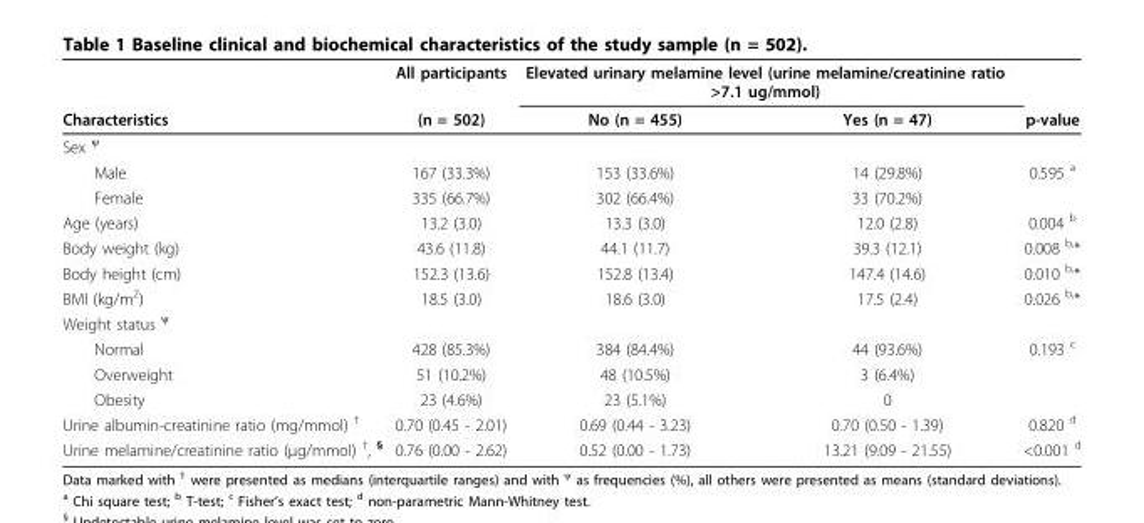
<table><thead><tr><td rowspan="2">Characteristics</td><td rowspan="2">All participants (n = 502)</td><td colspan="2">Elevated urinary melamine level (urine melamine/creatinine ratio &gt;7.1 ug/mmol)</td><td rowspan="2">p-value</td></tr><tr><td>No (n = 455)</td><td>Yes (n = 47)</td></tr></thead><tbody><tr><td colspan="5">Sex <sup>ψ</sup></td></tr><tr><td>Male</td><td>167 (33.3%)</td><td>153 (33.6%)</td><td>14 (29.8%)</td><td>0.595 <sup>a</sup></td></tr><tr><td>Female</td><td>335 (66.7%)</td><td>302 (66.4%)</td><td>33 (70.2%)</td><td></td></tr><tr><td>Age (years)</td><td>13.2 (3.0)</td><td>13.3 (3.0)</td><td>12.0 (2.8)</td><td>0.004 <sup>b</sup></td></tr><tr><td>Body weight (kg)</td><td>43.6 (11.8)</td><td>44.1 (11.7)</td><td>39.3 (12.1)</td><td>0.008 <sup>b,</sup>*</td></tr><tr><td>Body height (cm)</td><td>152.3 (13.6)</td><td>152.8 (13.4)</td><td>147.4 (14.6)</td><td>0.010 <sup>b,</sup>*</td></tr><tr><td>BMI (kg/m<sup>2</sup>)</td><td>18.5 (3.0)</td><td>18.6 (3.0)</td><td>17.5 (2.4)</td><td>0.026 <sup>b,</sup>*</td></tr><tr><td colspan="5">Weight status <sup>ψ</sup></td></tr><tr><td>Normal</td><td>428 (85.3%)</td><td>384 (84.4%)</td><td>44 (93.6%)</td><td>0.193 <sup>c</sup></td></tr><tr><td>Overweight</td><td>51 (10.2%)</td><td>48 (10.5%)</td><td>3 (6.4%)</td><td></td></tr><tr><td>Obesity</td><td>23 (4.6%)</td><td>23 (5.1%)</td><td>0</td><td></td></tr><tr><td>Urine albumin-creatinine ratio (mg/mmol) <sup>†</sup></td><td>0.70 (0.45 - 2.01)</td><td>0.69 (0.44 - 3.23)</td><td>0.70 (0.50 - 1.39)</td><td>0.820 <sup>d</sup></td></tr><tr><td>Urine melamine/creatinine ratio (μg/mmol) <sup>†</sup>, <sup>§</sup></td><td>0.76 (0.00 - 2.62)</td><td>0.52 (0.00 - 1.73)</td><td>13.21 (9.09 - 21.55)</td><td>&lt;0.001 <sup>d</sup></td></tr></tbody></table>